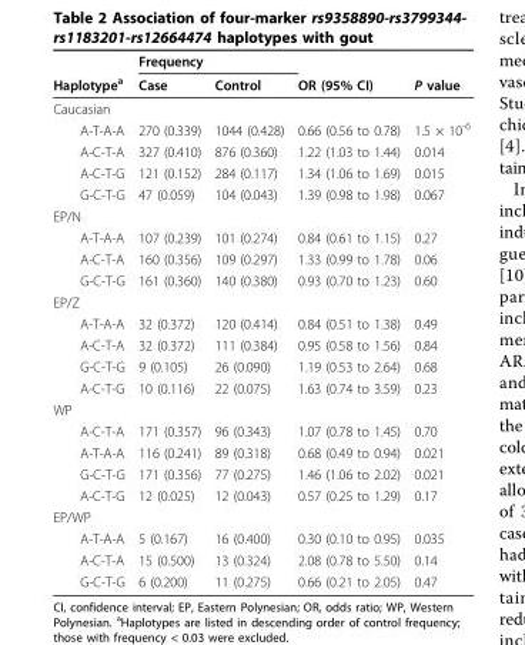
<table><thead><tr><td rowspan="2">Haplotype<sup>a</sup></td><td colspan="2">Frequency</td><td rowspan="2">OR (95% CI)</td><td rowspan="2">P value</td></tr><tr><td>Case</td><td>Control</td></tr></thead><tbody><tr><td colspan="5">Caucasian</td></tr><tr><td>A-T-A-A</td><td>270 (0.339)</td><td>1044 (0.428)</td><td>0.66 (0.56 to 0.78)</td><td>1.5 × 10<sup>-6</sup></td></tr><tr><td>A-C-T-A</td><td>327 (0.410)</td><td>876 (0.360)</td><td>1.22 (1.03 to 1.44)</td><td>0.014</td></tr><tr><td>A-C-T-G</td><td>121 (0.152)</td><td>284 (0.117)</td><td>1.34 (1.06 to 1.69)</td><td>0.015</td></tr><tr><td>G-C-T-G</td><td>47 (0.059)</td><td>104 (0.043)</td><td>1.39 (0.98 to 1.98)</td><td>0.067</td></tr><tr><td colspan="5">EP/N</td></tr><tr><td>A-T-A-A</td><td>107 (0.239)</td><td>101 (0.274)</td><td>0.84 (0.61 to 1.15)</td><td>0.27</td></tr><tr><td>A-C-T-A</td><td>160 (0.356)</td><td>109 (0.297)</td><td>1.33 (0.99 to 1.78)</td><td>0.06</td></tr><tr><td>G-C-T-G</td><td>161 (0.360)</td><td>140 (0.380)</td><td>0.93 (0.70 to 1.23)</td><td>0.60</td></tr><tr><td colspan="5">EP/Z</td></tr><tr><td>A-T-A-A</td><td>32 (0.372)</td><td>120 (0.414)</td><td>0.84 (0.51 to 1.38)</td><td>0.49</td></tr><tr><td>A-C-T-A</td><td>32 (0.372)</td><td>111 (0.384)</td><td>0.95 (0.58 to 1.56)</td><td>0.84</td></tr><tr><td>G-C-T-G</td><td>9 (0.105)</td><td>26 (0.090)</td><td>1.19 (0.53 to 2.64)</td><td>0.68</td></tr><tr><td>A-C-T-G</td><td>10 (0.116)</td><td>22 (0.075)</td><td>1.63 (0.74 to 3.59)</td><td>0.23</td></tr><tr><td colspan="5">WP</td></tr><tr><td>A-C-T-A</td><td>171 (0.357)</td><td>96 (0.343)</td><td>1.07 (0.78 to 1.45)</td><td>0.70</td></tr><tr><td>A-T-A-A</td><td>116 (0.241)</td><td>89 (0.318)</td><td>0.68 (0.49 to 0.94)</td><td>0.021</td></tr><tr><td>G-C-T-G</td><td>171 (0.356)</td><td>77 (0.275)</td><td>1.46 (1.06 to 2.02)</td><td>0.021</td></tr><tr><td>A-C-T-G</td><td>12 (0.025)</td><td>12 (0.043)</td><td>0.57 (0.25 to 1.29)</td><td>0.17</td></tr><tr><td colspan="5">EP/WP</td></tr><tr><td>A-T-A-A</td><td>5 (0.167)</td><td>16 (0.400)</td><td>0.30 (0.10 to 0.95)</td><td>0.035</td></tr><tr><td>A-C-T-A</td><td>15 (0.500)</td><td>13 (0.324)</td><td>2.08 (0.78 to 5.50)</td><td>0.14</td></tr><tr><td>G-C-T-G</td><td>6 (0.200)</td><td>11 (0.275)</td><td>0.66 (0.21 to 2.05)</td><td>0.47</td></tr></tbody></table>